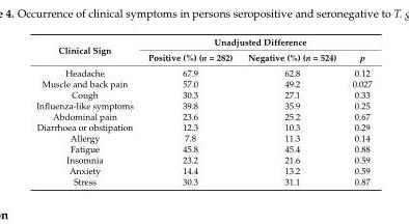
<table><thead><tr><td rowspan="2">Clinical Sign</td><td colspan="3">Unadjusted Difference</td></tr><tr><td>Positive (%) (n = 282)</td><td>Negative (%) (n = 524)</td><td>p</td></tr></thead><tbody><tr><td>Headache</td><td>67.9</td><td>62.8</td><td>0.12</td></tr><tr><td>Muscle and back pain</td><td>57.0</td><td>49.2</td><td>0.027</td></tr><tr><td>Cough</td><td>30.3</td><td>27.1</td><td>0.33</td></tr><tr><td>Influenza-like symptoms</td><td>39.8</td><td>35.9</td><td>0.25</td></tr><tr><td>Abdominal pain</td><td>23.6</td><td>25.2</td><td>0.67</td></tr><tr><td>Diarrhoea or obstipation</td><td>12.3</td><td>10.3</td><td>0.29</td></tr><tr><td>Allergy</td><td>7.8</td><td>11.3</td><td>0.14</td></tr><tr><td>Fatigue</td><td>45.8</td><td>45.4</td><td>0.88</td></tr><tr><td>Insomnia</td><td>23.2</td><td>21.6</td><td>0.59</td></tr><tr><td>Anxiety</td><td>14.4</td><td>13.2</td><td>0.59</td></tr><tr><td>Stress</td><td>30.3</td><td>31.1</td><td>0.87</td></tr></tbody></table>